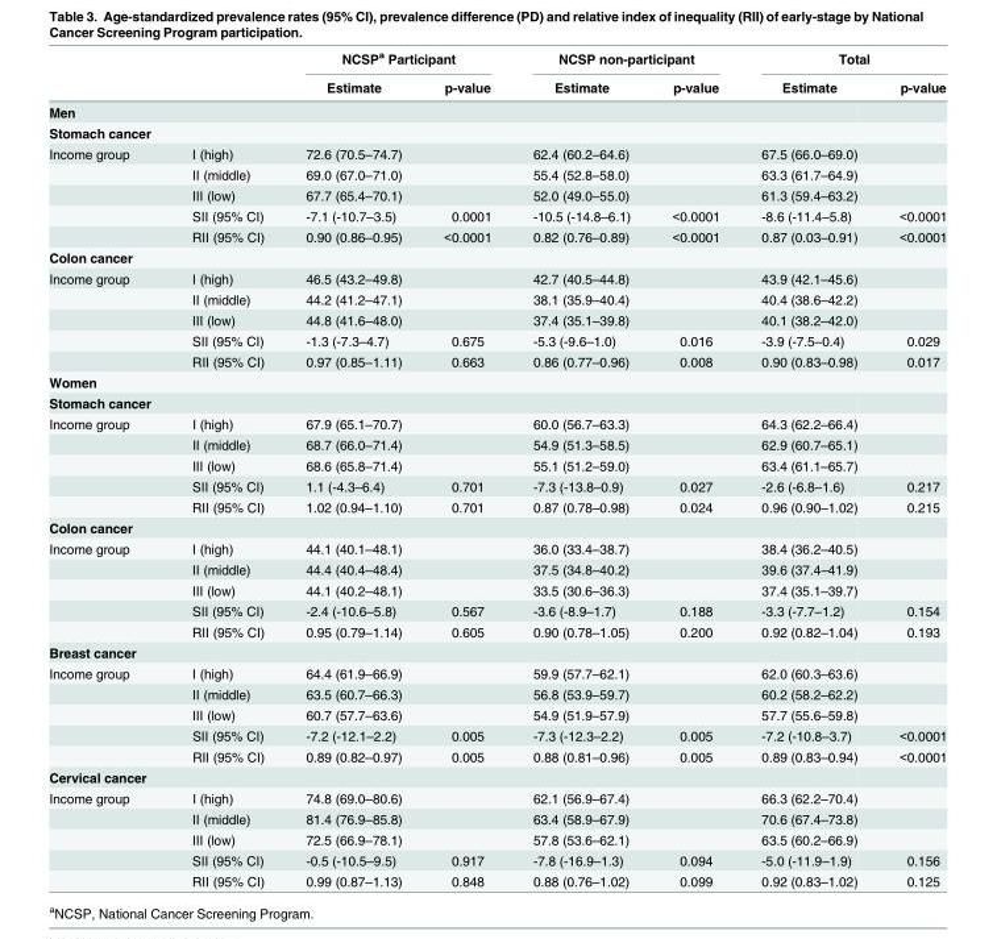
<table><thead><tr><td rowspan="2"></td><td rowspan="2"></td><td colspan="2">NCSP<sup>a</sup> Participant</td><td colspan="2">NCSP non-participant</td><td colspan="2">Total</td></tr><tr><td>Estimate</td><td>p-value</td><td>Estimate</td><td>p-value</td><td>Estimate</td><td>p-value</td></tr></thead><tbody><tr><td colspan="8">Men</td></tr><tr><td colspan="8">Stomach cancer</td></tr><tr><td rowspan="5">Income group</td><td>I (high)</td><td>72.6 (70.5–74.7)</td><td></td><td>62.4 (60.2–64.6)</td><td></td><td>67.5 (66.0–69.0)</td><td></td></tr><tr><td>II (middle)</td><td>69.0 (67.0–71.0)</td><td></td><td>55.4 (52.8–58.0)</td><td></td><td>63.3 (61.7–64.9)</td><td></td></tr><tr><td>III (low)</td><td>67.7 (65.4–70.1)</td><td></td><td>52.0 (49.0–55.0)</td><td></td><td>61.3 (59.4–63.2)</td><td></td></tr><tr><td>SII (95% CI)</td><td>-7.1 (-10.7–3.5)</td><td>0.0001</td><td>-10.5 (-14.8–6.1)</td><td>&lt;0.0001</td><td>-8.6 (-11.4–5.8)</td><td>&lt;0.0001</td></tr><tr><td>RII (95% CI)</td><td>0.90 (0.86–0.95)</td><td>&lt;0.0001</td><td>0.82 (0.76–0.89)</td><td>&lt;0.0001</td><td>0.87 (0.03–0.91)</td><td>&lt;0.0001</td></tr><tr><td colspan="8">Colon cancer</td></tr><tr><td rowspan="5">Income group</td><td>I (high)</td><td>46.5 (43.2–49.8)</td><td></td><td>42.7 (40.5–44.8)</td><td></td><td>43.9 (42.1–45.6)</td><td></td></tr><tr><td>II (middle)</td><td>44.2 (41.2–47.1)</td><td></td><td>38.1 (35.9–40.4)</td><td></td><td>40.4 (38.6–42.2)</td><td></td></tr><tr><td>III (low)</td><td>44.8 (41.6–48.0)</td><td></td><td>37.4 (35.1–39.8)</td><td></td><td>40.1 (38.2–42.0)</td><td></td></tr><tr><td>SII (95% CI)</td><td>-1.3 (-7.3–4.7)</td><td>0.675</td><td>-5.3 (-9.6–1.0)</td><td>0.016</td><td>-3.9 (-7.5–0.4)</td><td>0.029</td></tr><tr><td>RII (95% CI)</td><td>0.97 (0.85–1.11)</td><td>0.663</td><td>0.86 (0.77–0.96)</td><td>0.008</td><td>0.90 (0.83–0.98)</td><td>0.017</td></tr><tr><td colspan="8">Women</td></tr><tr><td colspan="8">Stomach cancer</td></tr><tr><td rowspan="5">Income group</td><td>I (high)</td><td>67.9 (65.1–70.7)</td><td></td><td>60.0 (56.7–63.3)</td><td></td><td>64.3 (62.2–66.4)</td><td></td></tr><tr><td>II (middle)</td><td>68.7 (66.0–71.4)</td><td></td><td>54.9 (51.3–58.5)</td><td></td><td>62.9 (60.7–65.1)</td><td></td></tr><tr><td>III (low)</td><td>68.6 (65.8–71.4)</td><td></td><td>55.1 (51.2–59.0)</td><td></td><td>63.4 (61.1–65.7)</td><td></td></tr><tr><td>SII (95% CI)</td><td>1.1 (-4.3–6.4)</td><td>0.701</td><td>-7.3 (-13.8–0.9)</td><td>0.027</td><td>-2.6 (-6.8–1.6)</td><td>0.217</td></tr><tr><td>RII (95% CI)</td><td>1.02 (0.94–1.10)</td><td>0.701</td><td>0.87 (0.78–0.98)</td><td>0.024</td><td>0.96 (0.90–1.02)</td><td>0.215</td></tr><tr><td colspan="8">Colon cancer</td></tr><tr><td rowspan="5">Income group</td><td>I (high)</td><td>44.1 (40.1–48.1)</td><td></td><td>36.0 (33.4–38.7)</td><td></td><td>38.4 (36.2–40.5)</td><td></td></tr><tr><td>II (middle)</td><td>44.4 (40.4–48.4)</td><td></td><td>37.5 (34.8–40.2)</td><td></td><td>39.6 (37.4–41.9)</td><td></td></tr><tr><td>III (low)</td><td>44.1 (40.2–48.1)</td><td></td><td>33.5 (30.6–36.3)</td><td></td><td>37.4 (35.1–39.7)</td><td></td></tr><tr><td>SII (95% CI)</td><td>-2.4 (-10.6–5.8)</td><td>0.567</td><td>-3.6 (-8.9–1.7)</td><td>0.188</td><td>-3.3 (-7.7–1.2)</td><td>0.154</td></tr><tr><td>RII (95% CI)</td><td>0.95 (0.79–1.14)</td><td>0.605</td><td>0.90 (0.78–1.05)</td><td>0.200</td><td>0.92 (0.82–1.04)</td><td>0.193</td></tr><tr><td colspan="8">Breast cancer</td></tr><tr><td rowspan="5">Income group</td><td>I (high)</td><td>64.4 (61.9–66.9)</td><td></td><td>59.9 (57.7–62.1)</td><td></td><td>62.0 (60.3–63.6)</td><td></td></tr><tr><td>II (middle)</td><td>63.5 (60.7–66.3)</td><td></td><td>56.8 (53.9–59.7)</td><td></td><td>60.2 (58.2–62.2)</td><td></td></tr><tr><td>III (low)</td><td>60.7 (57.7–63.6)</td><td></td><td>54.9 (51.9–57.9)</td><td></td><td>57.7 (55.6–59.8)</td><td></td></tr><tr><td>SII (95% CI)</td><td>-7.2 (-12.1–2.2)</td><td>0.005</td><td>-7.3 (-12.3–2.2)</td><td>0.005</td><td>-7.2 (-10.8–3.7)</td><td>&lt;0.0001</td></tr><tr><td>RII (95% CI)</td><td>0.89 (0.82–0.97)</td><td>0.005</td><td>0.88 (0.81–0.96)</td><td>0.005</td><td>0.89 (0.83–0.94)</td><td>&lt;0.0001</td></tr><tr><td colspan="8">Cervical cancer</td></tr><tr><td rowspan="5">Income group</td><td>I (high)</td><td>74.8 (69.0–80.6)</td><td></td><td>62.1 (56.9–67.4)</td><td></td><td>66.3 (62.2–70.4)</td><td></td></tr><tr><td>II (middle)</td><td>81.4 (76.9–85.8)</td><td></td><td>63.4 (58.9–67.9)</td><td></td><td>70.6 (67.4–73.8)</td><td></td></tr><tr><td>III (low)</td><td>72.5 (66.9–78.1)</td><td></td><td>57.8 (53.6–62.1)</td><td></td><td>63.5 (60.2–66.9)</td><td></td></tr><tr><td>SII (95% CI)</td><td>-0.5 (-10.5–9.5)</td><td>0.917</td><td>-7.8 (-16.9–1.3)</td><td>0.094</td><td>-5.0 (-11.9–1.9)</td><td>0.156</td></tr><tr><td>RII (95% CI)</td><td>0.99 (0.87–1.13)</td><td>0.848</td><td>0.88 (0.76–1.02)</td><td>0.099</td><td>0.92 (0.83–1.02)</td><td>0.125</td></tr></tbody></table>